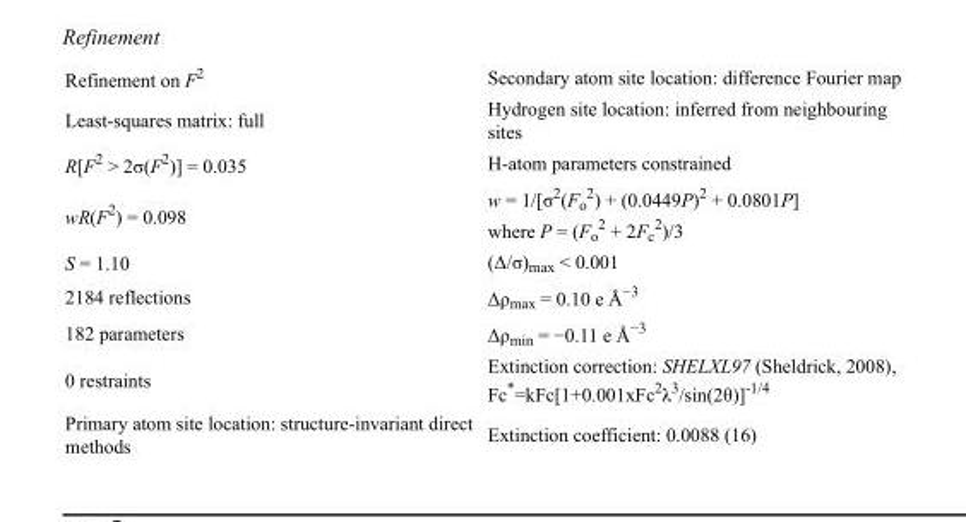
<table><tbody><tr><td>Refinement on F<sup>2</sup></td><td>Secondary atom site location: difference Fourier map</td></tr><tr><td>Least-squares matrix: full</td><td>Hydrogen site location: inferred from neighbouring sites</td></tr><tr><td>R[F<sup>2</sup> &gt; 2σ(F<sup>2</sup>)] = 0.035</td><td>H-atom parameters constrained</td></tr><tr><td>wR(F<sup>2</sup>) = 0.098</td><td>w = 1/[σ<sup>2</sup>(F<sub>o</sub> <sup>2</sup>) + (0.0449P)<sup>2</sup> + 0.0801P] where P = (F<sub>o</sub> <sup>2</sup> + 2F<sub>c</sub> <sup>2</sup>)/3</td></tr><tr><td>S = 1.10</td><td>(Δ/σ)<sub>max</sub> &lt; 0.001</td></tr><tr><td>2184 reflections</td><td>Δρ<sub>max</sub> = 0.10 e Å<sup>−3</sup></td></tr><tr><td>182 parameters</td><td>Δρ<sub>min</sub> = −0.11 e Å<sup>−3</sup></td></tr><tr><td>0 restraints</td><td>Extinction correction: SHELXL97 (Sheldrick, 2008), Fc*=kFc[1+0.001xFc<sup>2</sup>λ<sup>3</sup>/sin(2θ)]<sup>-1/4</sup></td></tr><tr><td>Primary atom site location: structure-invariant direct methods</td><td>Extinction coefficient: 0.0088 (16)</td></tr></tbody></table>